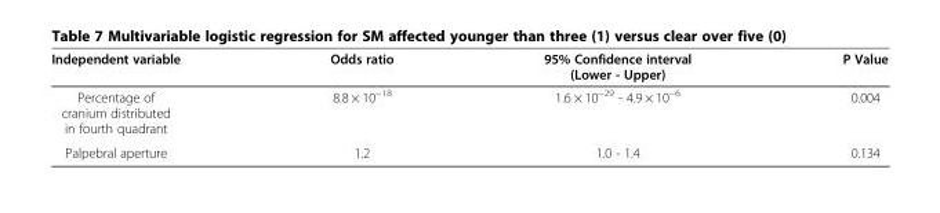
<table><thead><tr><td>Independent variable</td><td>Odds ratio</td><td>95% Confidence interval (Lower - Upper)</td><td>P Value</td></tr></thead><tbody><tr><td>Percentage of cranium distributed in fourth quadrant</td><td>8.8 × 10<sup>−18</sup></td><td>1.6 × 10<sup>−29</sup> - 4.9 × 10<sup>−6</sup></td><td>0.004</td></tr><tr><td>Palpebral aperture</td><td>1.2</td><td>1.0 - 1.4</td><td>0.134</td></tr></tbody></table>